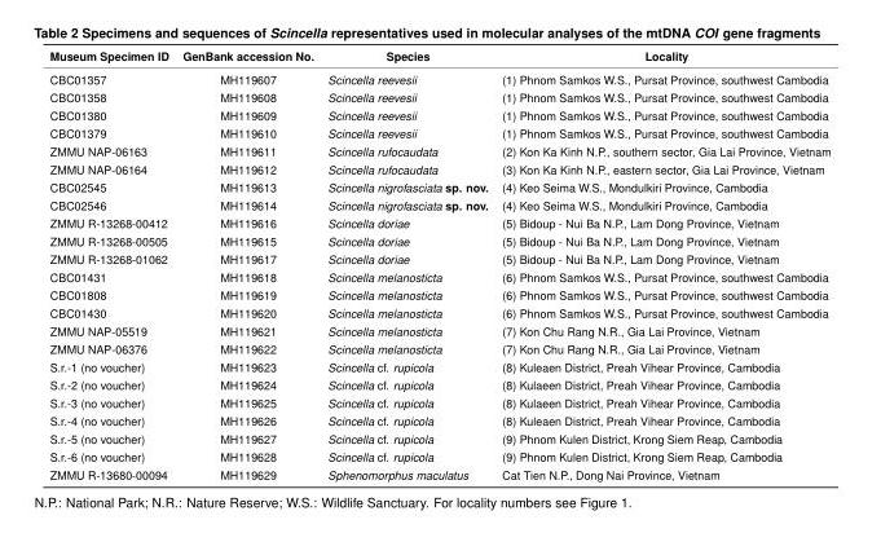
<table><thead><tr><td>Museum Specimen ID</td><td>GenBank accession No.</td><td>Species</td><td>Locality</td></tr></thead><tbody><tr><td>CBC01357</td><td>MH119607</td><td>Scincella reevesii</td><td>(1) Phnom Samkos W.S., Pursat Province, southwest Cambodia</td></tr><tr><td>CBC01358</td><td>MH119608</td><td>Scincella reevesii</td><td>(1) Phnom Samkos W.S., Pursat Province, southwest Cambodia</td></tr><tr><td>CBC01380</td><td>MH119609</td><td>Scincella reevesii</td><td>(1) Phnom Samkos W.S., Pursat Province, southwest Cambodia</td></tr><tr><td>CBC01379</td><td>MH119610</td><td>Scincella reevesii</td><td>(1) Phnom Samkos W.S., Pursat Province, southwest Cambodia</td></tr><tr><td>ZMMU NAP-06163</td><td>MH119611</td><td>Scincella rufocaudata</td><td>(2) Kon Ka Kinh N.P., southern sector, Gia Lai Province, Vietnam</td></tr><tr><td>ZMMU NAP-06164</td><td>MH119612</td><td>Scincella rufocaudata</td><td>(3) Kon Ka Kinh N.P., eastern sector, Gia Lai Province, Vietnam</td></tr><tr><td>CBC02545</td><td>MH119613</td><td>Scincella nigrofasciata sp. nov.</td><td>(4) Keo Seima W.S., Mondulkiri Province, Cambodia</td></tr><tr><td>CBC02546</td><td>MH119614</td><td>Scincella nigrofasciata sp. nov.</td><td>(4) Keo Seima W.S., Mondulkiri Province, Cambodia</td></tr><tr><td>ZMMU R-13268-00412</td><td>MH119616</td><td>Scincella doriae</td><td>(5) Bidoup - Nui Ba N.P., Lam Dong Province, Vietnam</td></tr><tr><td>ZMMU R-13268-00505</td><td>MH119615</td><td>Scincella doriae</td><td>(5) Bidoup - Nui Ba N.P., Lam Dong Province, Vietnam</td></tr><tr><td>ZMMU R-13268-01062</td><td>MH119617</td><td>Scincella doriae</td><td>(5) Bidoup - Nui Ba N.P., Lam Dong Province, Vietnam</td></tr><tr><td>CBC01431</td><td>MH119618</td><td>Scincella melanosticta</td><td>(6) Phnom Samkos W.S., Pursat Province, southwest Cambodia</td></tr><tr><td>CBC01808</td><td>MH119619</td><td>Scincella melanosticta</td><td>(6) Phnom Samkos W.S., Pursat Province, southwest Cambodia</td></tr><tr><td>CBC01430</td><td>MH119620</td><td>Scincella melanosticta</td><td>(6) Phnom Samkos W.S., Pursat Province, southwest Cambodia</td></tr><tr><td>ZMMU NAP-05519</td><td>MH119621</td><td>Scincella melanosticta</td><td>(7) Kon Chu Rang N.R., Gia Lai Province, Vietnam</td></tr><tr><td>ZMMU NAP-06376</td><td>MH119622</td><td>Scincella melanosticta</td><td>(7) Kon Chu Rang N.R., Gia Lai Province, Vietnam</td></tr><tr><td>S.r.-1 (no voucher)</td><td>MH119623</td><td>Scincella cf. rupicola</td><td>(8) Kuleaen District, Preah Vihear Province, Cambodia</td></tr><tr><td>S.r.-2 (no voucher)</td><td>MH119624</td><td>Scincella cf. rupicola</td><td>(8) Kulaeen District, Preah Vihear Province, Cambodia</td></tr><tr><td>S.r.-3 (no voucher)</td><td>MH119625</td><td>Scincella cf. rupicola</td><td>(8) Kulaeen District, Preah Vihear Province, Cambodia</td></tr><tr><td>S.r.-4 (no voucher)</td><td>MH119626</td><td>Scincella cf. rupicola</td><td>(8) Kuleaen District, Preah Vihear Province, Cambodia</td></tr><tr><td>S.r.-5 (no voucher)</td><td>MH119627</td><td>Scincella cf. rupicola</td><td>(9) Phnom Kulen District, Krong Siem Reap, Cambodia</td></tr><tr><td>S.r.-6 (no voucher)</td><td>MH119628</td><td>Scincella cf. rupicola</td><td>(9) Phnom Kulen District, Krong Siem Reap, Cambodia</td></tr><tr><td>ZMMU R-13680-00094</td><td>MH119629</td><td>Sphenomorphus maculatus</td><td>Cat Tien N.P., Dong Nai Province, Vietnam</td></tr></tbody></table>